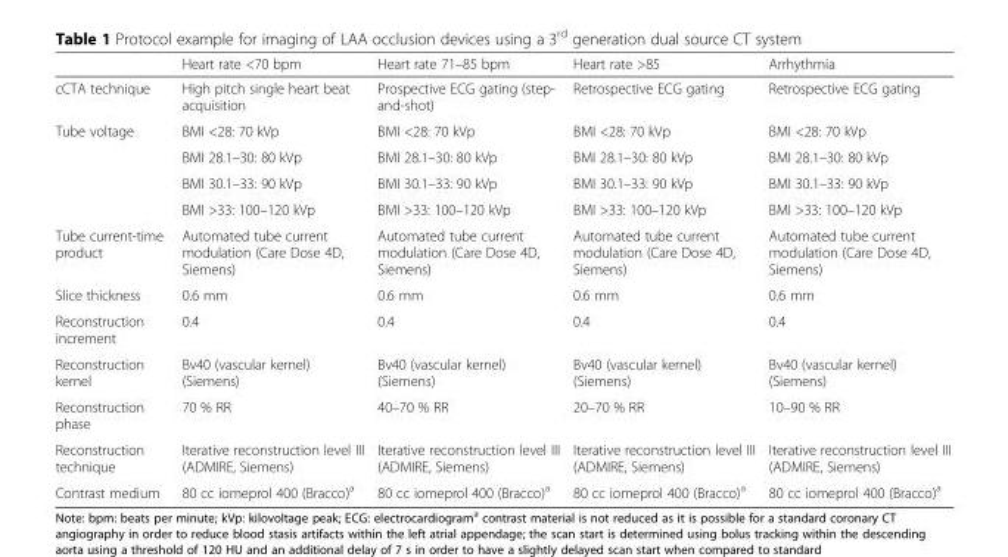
<table><thead><tr><td></td><td>Heart rate &lt;70 bpm</td><td>Heart rate 71–85 bpm</td><td>Heart rate &gt;85</td><td>Arrhythmia</td></tr></thead><tbody><tr><td>cCTA technique</td><td>High pitch single heart beat acquisition</td><td>Prospective ECG gating (step- and-shot)</td><td>Retrospective ECG gating</td><td>Retrospective ECG gating</td></tr><tr><td rowspan="4">Tube voltage</td><td>BMI &lt;28: 70 kVp</td><td>BMI &lt;28: 70 kVp</td><td>BMI &lt;28: 70 kVp</td><td>BMI &lt;28: 70 kVp</td></tr><tr><td>BMI 28.1–30: 80 kVp</td><td>BMI 28.1–30: 80 kVp</td><td>BMI 28.1–30: 80 kVp</td><td>BMI 28.1–30: 80 kVp</td></tr><tr><td>BMI 30.1–33: 90 kVp</td><td>BMI 30.1–33: 90 kVp</td><td>BMI 30.1–33: 90 kVp</td><td>BMI 30.1–33: 90 kVp</td></tr><tr><td>BMI &gt;33: 100–120 kVp</td><td>BMI &gt;33: 100–120 kVp</td><td>BMI &gt;33: 100–120 kVp</td><td>BMI &gt;33: 100–120 kVp</td></tr><tr><td>Tube current-time product</td><td>Automated tube current modulation (Care Dose 4D, Siemens)</td><td>Automated tube current modulation (Care Dose 4D, Siemens)</td><td>Automated tube current modulation (Care Dose 4D, Siemens)</td><td>Automated tube current modulation (Care Dose 4D, Siemens)</td></tr><tr><td>Slice thickness</td><td>0.6 mm</td><td>0.6 mm</td><td>0.6 mm</td><td>0.6 mm</td></tr><tr><td>Reconstruction increment</td><td>0.4</td><td>0.4</td><td>0.4</td><td>0.4</td></tr><tr><td>Reconstruction kernel</td><td>Bv40 (vascular kernel) (Siemens)</td><td>Bv40 (vascular kernel) (Siemens)</td><td>Bv40 (vascular kernel) (Siemens)</td><td>Bv40 (vascular kernel) (Siemens)</td></tr><tr><td>Reconstruction phase</td><td>70 % RR</td><td>40–70 % RR</td><td>20–70 % RR</td><td>10–90 % RR</td></tr><tr><td>Reconstruction technique</td><td>Iterative reconstruction level III (ADMIRE, Siemens)</td><td>Iterative reconstruction level III (ADMIRE, Siemens)</td><td>Iterative reconstruction level III (ADMIRE, Siemens)</td><td>Iterative reconstruction level III (ADMIRE, Siemens)</td></tr><tr><td>Contrast medium</td><td>80 cc iomeprol 400 (Bracco)<sup>a</sup></td><td>80 cc iomeprol 400 (Bracco)<sup>a</sup></td><td>80 cc iomeprol 400 (Bracco)<sup>a</sup></td><td>80 cc iomeprol 400 (Bracco)<sup>a</sup></td></tr></tbody></table>